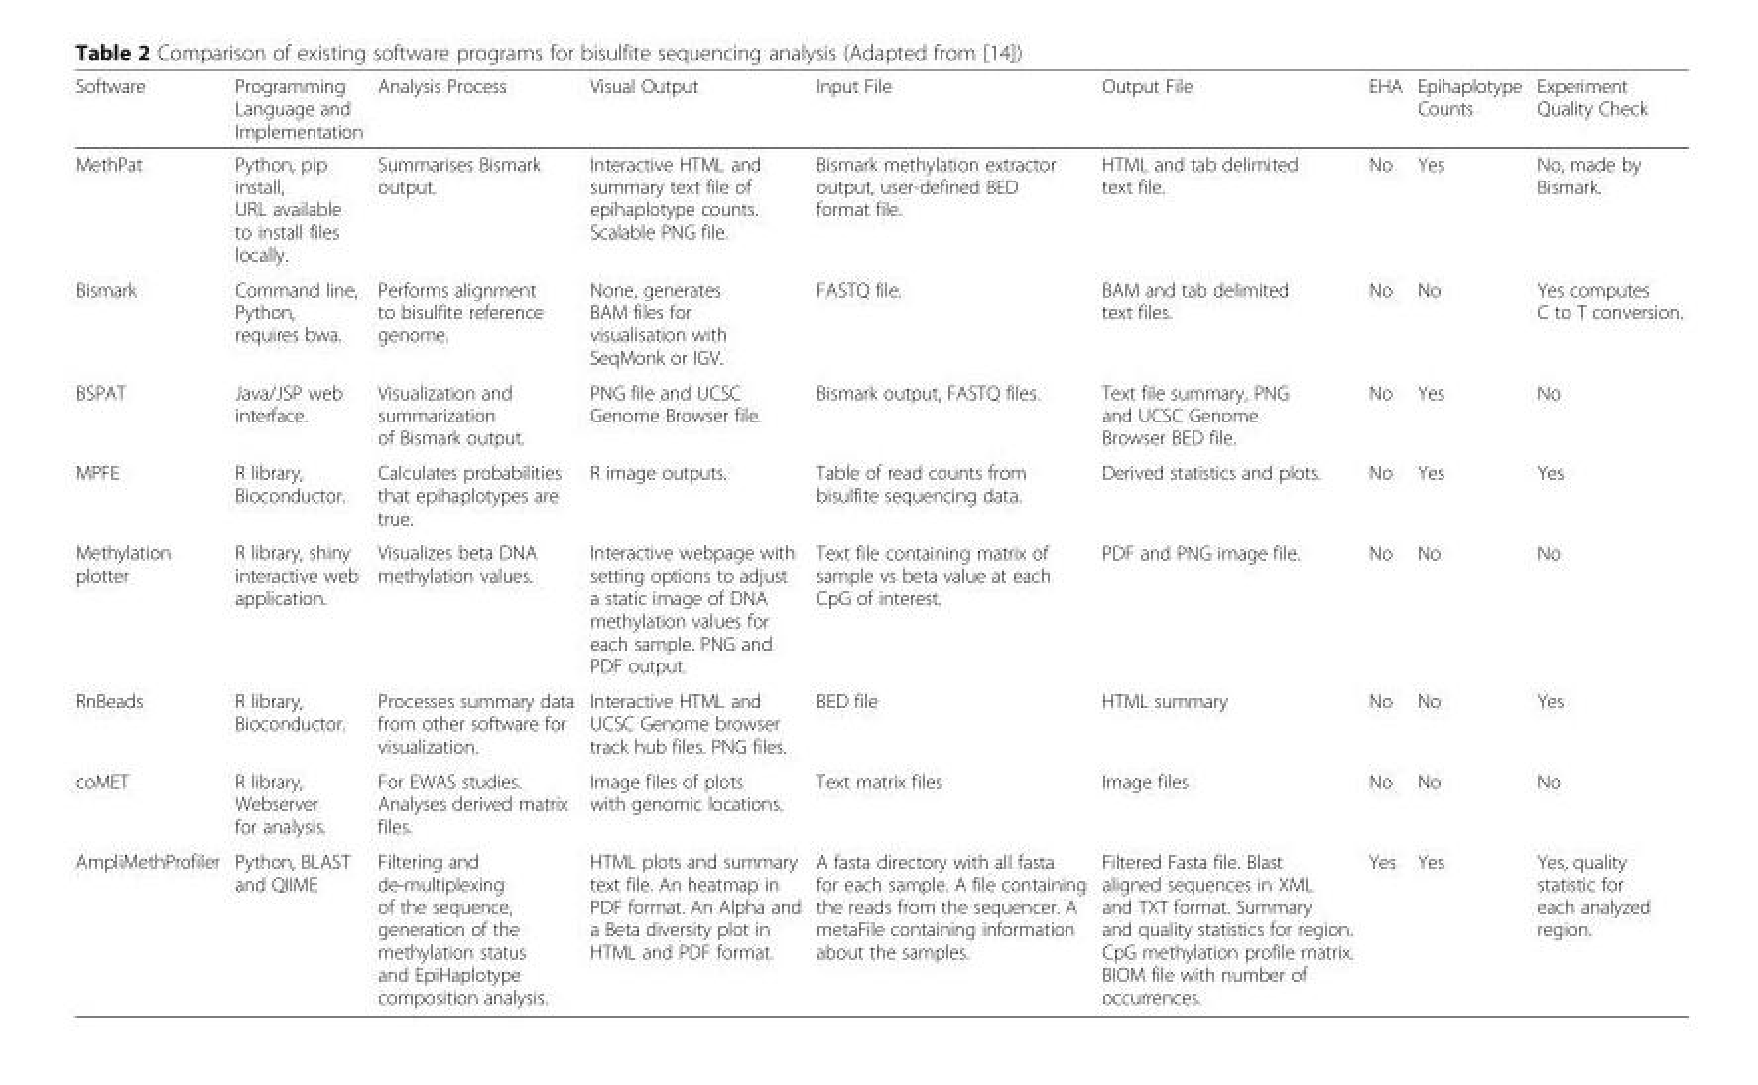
<table><thead><tr><td>Software</td><td>Programming Language and Implementation</td><td>Analysis Process</td><td>Visual Output</td><td>Input File</td><td>Output File</td><td>EHA</td><td>Epihaplotype Counts</td><td>Experiment Quality Check</td></tr></thead><tbody><tr><td>MethPat</td><td>Python, pip install, URL available to install files locally.</td><td>Summarises Bismark output.</td><td>Interactive HTML and summary text file of epihaplotype counts. Scalable PNG file.</td><td>Bismark methylation extractor output, user-defined BED format file.</td><td>HTML and tab delimited text file.</td><td>No</td><td>Yes</td><td>No, made by Bismark.</td></tr><tr><td>Bismark</td><td>Command line, Python, requires bwa.</td><td>Performs alignment to bisulfite reference genome.</td><td>None, generates BAM files for visualisation with SeqMonk or IGV.</td><td>FASTQ file.</td><td>BAM and tab delimited text files.</td><td>No</td><td>No</td><td>Yes computes C to T conversion.</td></tr><tr><td>BSPAT</td><td>Java/JSP web interface.</td><td>Visualization and summarization of Bismark output.</td><td>PNG file and UCSC Genome Browser file.</td><td>Bismark output, FASTQ files.</td><td>Text file summary, PNG and UCSC Genome Browser BED file.</td><td>No</td><td>Yes</td><td>No</td></tr><tr><td>MPFE</td><td>R library, Bioconductor.</td><td>Calculates probabilities that epihaplotypes are true.</td><td>R image outputs.</td><td>Table of read counts from bisulfite sequencing data.</td><td>Derived statistics and plots.</td><td>No</td><td>Yes</td><td>Yes</td></tr><tr><td>Methylation plotter</td><td>R library, shiny interactive web application.</td><td>Visualizes beta DNA methylation values.</td><td>Interactive webpage with setting options to adjust a static image of DNA methylation values for each sample. PNG and PDF output.</td><td>Text file containing matrix of sample vs beta value at each CpG of interest.</td><td>PDF and PNG image file.</td><td>No</td><td>No</td><td>No</td></tr><tr><td>RnBeads</td><td>R library, Bioconductor.</td><td>Processes summary data from other software for visualization.</td><td>Interactive HTML and UCSC Genome browser track hub files. PNG files.</td><td>BED file</td><td>HTML summary</td><td>No</td><td>No</td><td>Yes</td></tr><tr><td>coMET</td><td>R library, Webserver for analysis.</td><td>For EWAS studies. Analyses derived matrix files.</td><td>Image files of plots with genomic locations.</td><td>Text matrix files</td><td>Image files</td><td>No</td><td>No</td><td>No</td></tr><tr><td>AmpliMethProfiler</td><td>Python, BLAST and QIIME</td><td>Filtering and de-multiplexing of the sequence, generation of the methylation status and EpiHaplotype composition analysis.</td><td>HTML plots and summary text file. An heatmap in PDF format. An Alpha and a Beta diversity plot in HTML and PDF format.</td><td>A fasta directory with all fasta for each sample. A file containing the reads from the sequencer. A metaFile containing information about the samples.</td><td>Filtered Fasta file. Blast aligned sequences in XML and TXT format. Summary and quality statistics for region. CpG methylation profile matrix. BIOM file with number of occurrences.</td><td>Yes</td><td>Yes</td><td>Yes, quality statistic for each analyzed region.</td></tr></tbody></table>